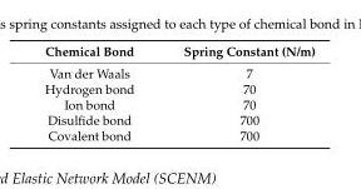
<table><thead><tr><td>Chemical Bond</td><td>Spring Constant (N/m)</td></tr></thead><tbody><tr><td>Van der Waals</td><td>7</td></tr><tr><td>Hydrogen bond</td><td>70</td></tr><tr><td>Ion bond</td><td>70</td></tr><tr><td>Disulfide bond</td><td>700</td></tr><tr><td>Covalent bond</td><td>700</td></tr></tbody></table>